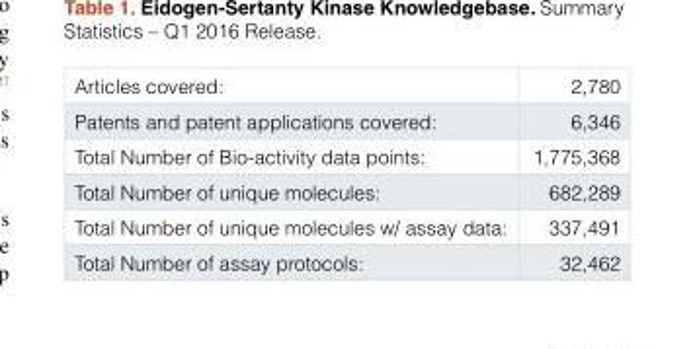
<table><tbody><tr><td>Articles covered:</td><td>2,780</td></tr><tr><td>Patents and patent applications covered:</td><td>6,346</td></tr><tr><td>Total Number of Bio-activity data points:</td><td>1,775,368</td></tr><tr><td>Total Number of unique molecules:</td><td>682,289</td></tr><tr><td>Total Number of unique molecules w/ assay data:</td><td>337,491</td></tr><tr><td>Total Number of assay protocols:</td><td>32,462</td></tr></tbody></table>